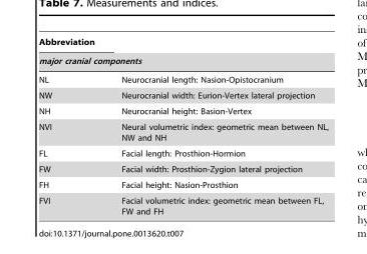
<table><thead><tr><td>Abbreviation</td><td></td></tr><tr><td colspan="2">major cranial components</td></tr></thead><tbody><tr><td>NL</td><td>Neurocranial length: Nasion-Opistocranium</td></tr><tr><td>NW</td><td>Neurocranial width: Eurion-Vertex lateral projection</td></tr><tr><td>NH</td><td>Neurocranial height: Basion-Vertex</td></tr><tr><td>NVI</td><td>Neural volumetric index: geometric mean between NL, NW and NH</td></tr><tr><td>FL</td><td>Facial length: Prosthion-Hormion</td></tr><tr><td>FW</td><td>Facial width: Prosthion-Zygion lateral projection</td></tr><tr><td>FH</td><td>Facial height: Nasion-Prosthion</td></tr><tr><td>FVI</td><td>Facial volumetric index: geometric mean between FL, FW and FH</td></tr></tbody></table>